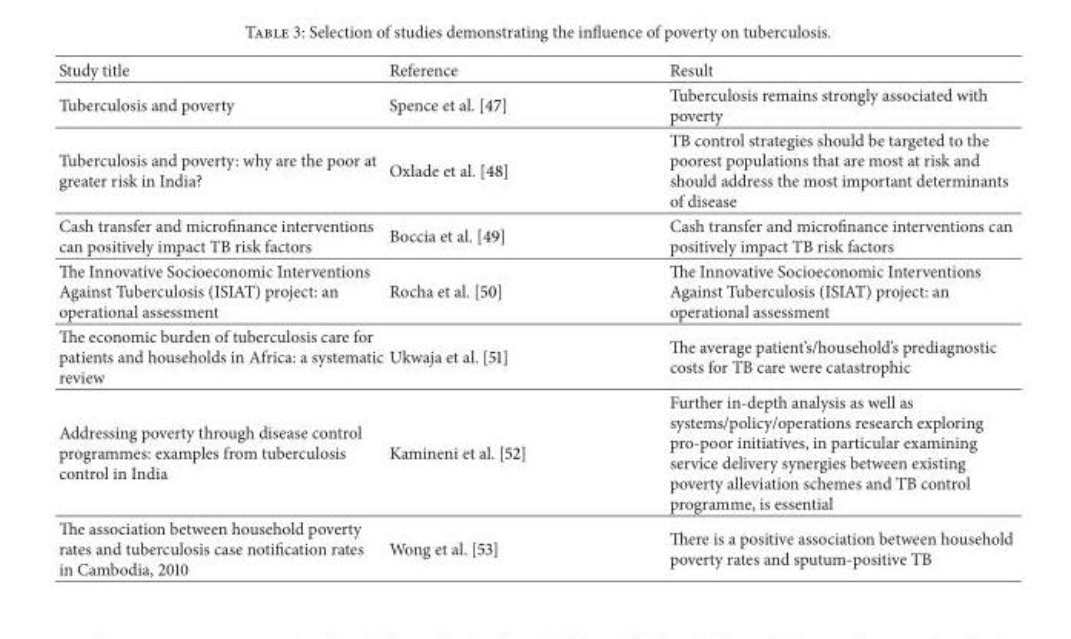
<table><thead><tr><td>Study title</td><td>Reference</td><td>Result</td></tr></thead><tbody><tr><td>Tuberculosis and poverty</td><td>Spence et al. [47]</td><td>Tuberculosis remains strongly associated with poverty</td></tr><tr><td>Tuberculosis and poverty: why are the poor at greater risk in India?</td><td>Oxlade et al. [48]</td><td>TB control strategies should be targeted to the poorest populations that are most at risk and should address the most important determinants of disease</td></tr><tr><td>Cash transfer and microfinance interventions can positively impact TB risk factors</td><td>Boccia et al. [49]</td><td>Cash transfer and microfinance interventions can positively impact TB risk factors</td></tr><tr><td>The Innovative Socioeconomic Interventions Against Tuberculosis (ISIAT) project: an operational assessment</td><td>Rocha et al. [50]</td><td>The Innovative Socioeconomic Interventions Against Tuberculosis (ISIAT) project: an operational assessment</td></tr><tr><td>The economic burden of tuberculosis care for patients and households in Africa: a systematic review</td><td>Ukwaja et al. [51]</td><td>The average patient’s/household’s prediagnostic costs for TB care were catastrophic</td></tr><tr><td>Addressing poverty through disease control programmes: examples from tuberculosis control in India</td><td>Kamineni et al. [52]</td><td>Further in-depth analysis as well as systems/policy/operations research exploring pro-poor initiatives, in particular examining service delivery synergies between existing poverty alleviation schemes and TB control programme, is essential</td></tr><tr><td>The association between household poverty rates and tuberculosis case notification rates in Cambodia, 2010</td><td>Wong et al. [53]</td><td>There is a positive association between household poverty rates and sputum-positive TB</td></tr></tbody></table>